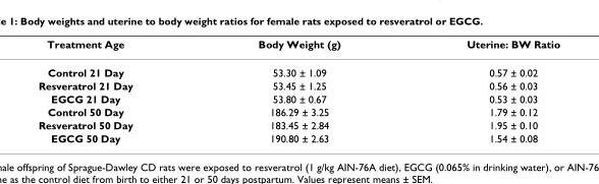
<table><thead><tr><td>Treatment Age</td><td>Body Weight (g)</td><td>Uterine: BW Ratio</td></tr></thead><tbody><tr><td>Control 21 Day</td><td>53.30 ± 1.09</td><td>0.57 ± 0.02</td></tr><tr><td>Resveratrol 21 Day</td><td>53.45 ± 1.25</td><td>0.56 ± 0.03</td></tr><tr><td>EGCG 21 Day</td><td>53.80 ± 0.67</td><td>0.53 ± 0.03</td></tr><tr><td>Control 50 Day</td><td>186.29 ± 3.25</td><td>1.79 ± 0.12</td></tr><tr><td>Resveratrol 50 Day</td><td>183.45 ± 2.84</td><td>1.95 ± 0.10</td></tr><tr><td>EGCG 50 Day</td><td>190.80 ± 2.63</td><td>1.54 ± 0.08</td></tr></tbody></table>